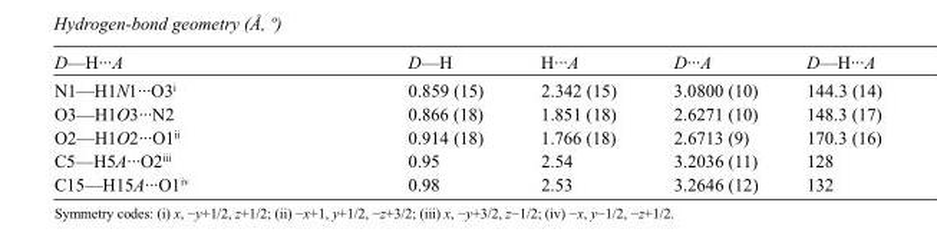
<table><tbody><tr><td>D—H···A</td><td>D—H</td><td>H···A</td><td>D···A</td><td>D—H···A</td></tr><tr><td>N1—H1N1···O3<sup>i</sup></td><td>0.859 (15)</td><td>2.342 (15)</td><td>3.0800 (10)</td><td>144.3 (14)</td></tr><tr><td>O3—H1O3···N2</td><td>0.866 (18)</td><td>1.851 (18)</td><td>2.6271 (10)</td><td>148.3 (17)</td></tr><tr><td>O2—H1O2···O1<sup>ii</sup></td><td>0.914 (18)</td><td>1.766 (18)</td><td>2.6713 (9)</td><td>170.3 (16)</td></tr><tr><td>C5—H5A···O2<sup>iii</sup></td><td>0.95</td><td>2.54</td><td>3.2036 (11)</td><td>128</td></tr><tr><td>C15—H15A···O1<sup>iv</sup></td><td>0.98</td><td>2.53</td><td>3.2646 (12)</td><td>132</td></tr></tbody></table>